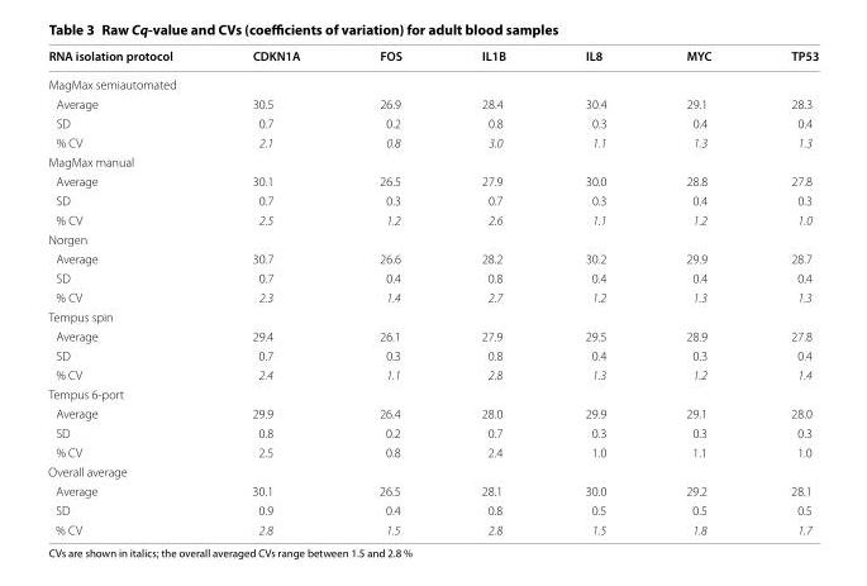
<table><thead><tr><td>RNA isolation protocol</td><td>CDKN1A</td><td>FOS</td><td>IL1B</td><td>IL8</td><td>MYC</td><td>TP53</td></tr></thead><tbody><tr><td colspan="7">MagMax semiautomated</td></tr><tr><td>Average</td><td>30.5</td><td>26.9</td><td>28.4</td><td>30.4</td><td>29.1</td><td>28.3</td></tr><tr><td>SD</td><td>0.7</td><td>0.2</td><td>0.8</td><td>0.3</td><td>0.4</td><td>0.4</td></tr><tr><td>% CV</td><td>2.1</td><td>0.8</td><td>3.0</td><td>1.1</td><td>1.3</td><td>1.3</td></tr><tr><td colspan="7">MagMax manual</td></tr><tr><td>Average</td><td>30.1</td><td>26.5</td><td>27.9</td><td>30.0</td><td>28.8</td><td>27.8</td></tr><tr><td>SD</td><td>0.7</td><td>0.3</td><td>0.7</td><td>0.3</td><td>0.4</td><td>0.3</td></tr><tr><td>% CV</td><td>2.5</td><td>1.2</td><td>2.6</td><td>1.1</td><td>1.2</td><td>1.0</td></tr><tr><td colspan="7">Norgen</td></tr><tr><td>Average</td><td>30.7</td><td>26.6</td><td>28.2</td><td>30.2</td><td>29.9</td><td>28.7</td></tr><tr><td>SD</td><td>0.7</td><td>0.4</td><td>0.8</td><td>0.4</td><td>0.4</td><td>0.4</td></tr><tr><td>% CV</td><td>2.3</td><td>1.4</td><td>2.7</td><td>1.2</td><td>1.3</td><td>1.3</td></tr><tr><td colspan="7">Tempus spin</td></tr><tr><td>Average</td><td>29.4</td><td>26.1</td><td>27.9</td><td>29.5</td><td>28.9</td><td>27.8</td></tr><tr><td>SD</td><td>0.7</td><td>0.3</td><td>0.8</td><td>0.4</td><td>0.3</td><td>0.4</td></tr><tr><td>% CV</td><td>2.4</td><td>1.1</td><td>2.8</td><td>1.3</td><td>1.2</td><td>1.4</td></tr><tr><td colspan="7">Tempus 6-port</td></tr><tr><td>Average</td><td>29.9</td><td>26.4</td><td>28.0</td><td>29.9</td><td>29.1</td><td>28.0</td></tr><tr><td>SD</td><td>0.8</td><td>0.2</td><td>0.7</td><td>0.3</td><td>0.3</td><td>0.3</td></tr><tr><td>% CV</td><td>2.5</td><td>0.8</td><td>2.4</td><td>1.0</td><td>1.1</td><td>1.0</td></tr><tr><td colspan="7">Overall average</td></tr><tr><td>Average</td><td>30.1</td><td>26.5</td><td>28.1</td><td>30.0</td><td>29.2</td><td>28.1</td></tr><tr><td>SD</td><td>0.9</td><td>0.4</td><td>0.8</td><td>0.5</td><td>0.5</td><td>0.5</td></tr><tr><td>% CV</td><td>2.8</td><td>1.5</td><td>2.8</td><td>1.5</td><td>1.8</td><td>1.7</td></tr></tbody></table>